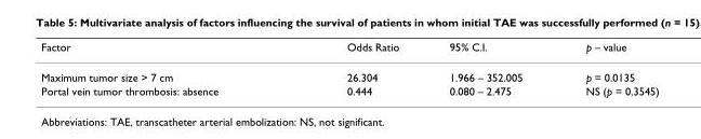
<table><thead><tr><td>Factor</td><td>Odds Ratio</td><td>95% C.I.</td><td>p – value</td></tr></thead><tbody><tr><td>Maximum tumor size &gt; 7 cm</td><td>26.304</td><td>1.966 – 352.005</td><td>p = 0.0135</td></tr><tr><td>Portal vein tumor thrombosis: absence</td><td>0.444</td><td>0.080 – 2.475</td><td>NS (p = 0.3545)</td></tr></tbody></table>